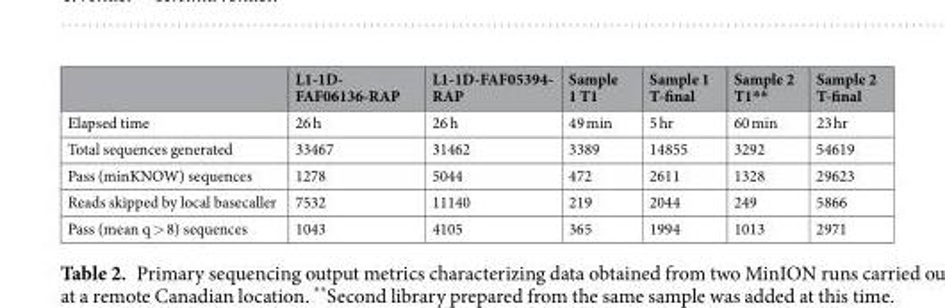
<table><thead><tr><td></td><td>L1-1D- FAF06136-RAP</td><td>L1-1D-FAF05394- RAP</td><td>Sample 1 T1</td><td>Sample 1 T-final</td><td>Sample 2 T1**</td><td>Sample 2 T-final</td></tr></thead><tbody><tr><td>Elapsed time</td><td>26 h</td><td>26 h</td><td>49 min</td><td>5 hr</td><td>60 min</td><td>23 hr</td></tr><tr><td>Total sequences generated</td><td>33467</td><td>31462</td><td>3389</td><td>14855</td><td>3292</td><td>54619</td></tr><tr><td>Pass (minKNOW) sequences</td><td>1278</td><td>5044</td><td>472</td><td>2611</td><td>1328</td><td>29623</td></tr><tr><td>Reads skipped by local basecaller</td><td>7532</td><td>11140</td><td>219</td><td>2044</td><td>249</td><td>5866</td></tr><tr><td>Pass (mean q &gt; 8) sequences</td><td>1043</td><td>4105</td><td>365</td><td>1994</td><td>1013</td><td>2971</td></tr></tbody></table>